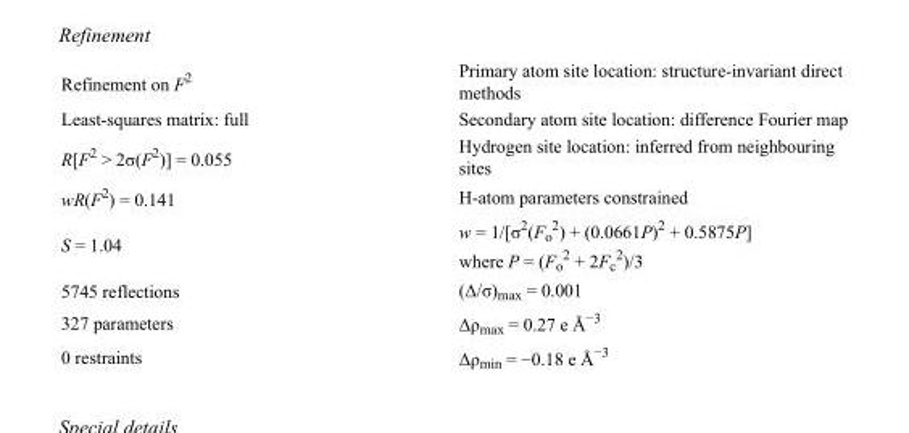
<table><tbody><tr><td>Refinement on F<sup>2</sup></td><td>Primary atom site location: structure-invariant direct methods</td></tr><tr><td>Least-squares matrix: full</td><td>Secondary atom site location: difference Fourier map</td></tr><tr><td>R[F<sup>2</sup> &gt; 2σ(F<sup>2</sup>)] = 0.055</td><td>Hydrogen site location: inferred from neighbouring sites</td></tr><tr><td>wR(F<sup>2</sup>) = 0.141</td><td>H-atom parameters constrained</td></tr><tr><td>S = 1.04</td><td>w = 1/[σ<sup>2</sup>(F<sub>o</sub> <sup>2</sup>) + (0.0661P)<sup>2</sup> + 0.5875P] where P = (F<sub>o</sub> <sup>2</sup> + 2F<sub>c</sub> <sup>2</sup>)/3</td></tr><tr><td>5745 reflections</td><td>(Δ/σ)<sub>max</sub> = 0.001</td></tr><tr><td>327 parameters</td><td>Δρ<sub>max</sub> = 0.27 e Å<sup>−3</sup></td></tr><tr><td>0 restraints</td><td>Δρ<sub>min</sub> = −0.18 e Å<sup>−3</sup></td></tr></tbody></table>